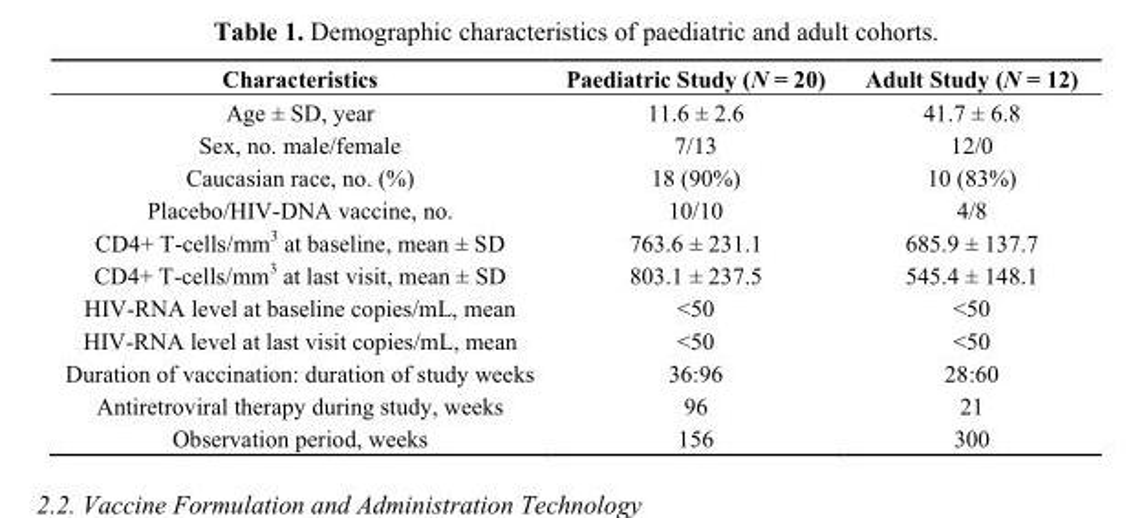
<table><thead><tr><td>Characteristics</td><td>Paediatric Study (N = 20)</td><td>Adult Study (N = 12)</td></tr></thead><tbody><tr><td>Age ± SD, year</td><td>11.6 ± 2.6</td><td>41.7 ± 6.8</td></tr><tr><td>Sex, no. male/female</td><td>7/13</td><td>12/0</td></tr><tr><td>Caucasian race, no. (%)</td><td>18 (90%)</td><td>10 (83%)</td></tr><tr><td>Placebo/HIV-DNA vaccine, no.</td><td>10/10</td><td>4/8</td></tr><tr><td>CD4+ T-cells/mm<sup>3</sup> at baseline, mean ± SD</td><td>763.6 ± 231.1</td><td>685.9 ± 137.7</td></tr><tr><td>CD4+ T-cells/mm<sup>3</sup> at last visit, mean ± SD</td><td>803.1 ± 237.5</td><td>545.4 ± 148.1</td></tr><tr><td>HIV-RNA level at baseline copies/mL, mean</td><td>&lt;50</td><td>&lt;50</td></tr><tr><td>HIV-RNA level at last visit copies/mL, mean</td><td>&lt;50</td><td>&lt;50</td></tr><tr><td>Duration of vaccination: duration of study weeks</td><td>36:96</td><td>28:60</td></tr><tr><td>Antiretroviral therapy during study, weeks</td><td>96</td><td>21</td></tr><tr><td>Observation period, weeks</td><td>156</td><td>300</td></tr></tbody></table>